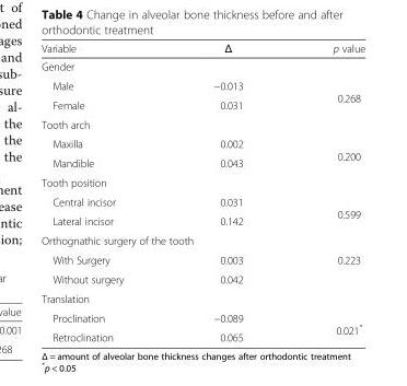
<table><thead><tr><td>Variable</td><td>Δ</td><td>p value</td></tr></thead><tbody><tr><td colspan="3">Gender</td></tr><tr><td>Male</td><td>−0.013</td><td rowspan="2">0.268</td></tr><tr><td>Female</td><td>0.031</td></tr><tr><td colspan="3">Tooth arch</td></tr><tr><td>Maxilla</td><td>0.002</td><td rowspan="2">0.200</td></tr><tr><td>Mandible</td><td>0.043</td></tr><tr><td colspan="3">Tooth position</td></tr><tr><td>Central incisor</td><td>0.031</td><td rowspan="2">0.599</td></tr><tr><td>Lateral incisor</td><td>0.142</td></tr><tr><td colspan="3">Orthognathic surgery of the tooth</td></tr><tr><td>With Surgery</td><td>0.003</td><td>0.223</td></tr><tr><td>Without surgery</td><td>0.042</td><td></td></tr><tr><td colspan="3">Translation</td></tr><tr><td>Proclination</td><td>−0.089</td><td rowspan="2">0.021*</td></tr><tr><td>Retroclination</td><td>0.065</td></tr></tbody></table>